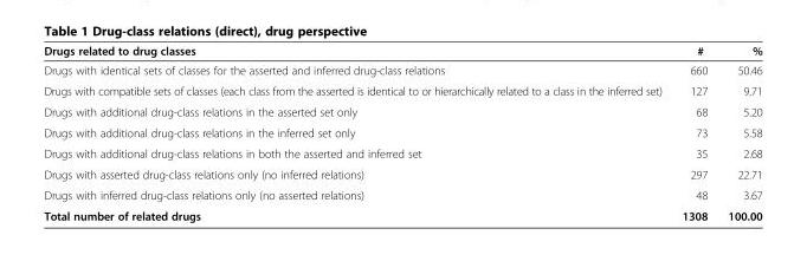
<table><thead><tr><td>Drugs related to drug classes</td><td>#</td><td>%</td></tr></thead><tbody><tr><td>Drugs with identical sets of classes for the asserted and inferred drug-class relations</td><td>660</td><td>50.46</td></tr><tr><td>Drugs with compatible sets of classes (each class from the asserted is identical to or hierarchically related to a class in the inferred set)</td><td>127</td><td>9.71</td></tr><tr><td>Drugs with additional drug-class relations in the asserted set only</td><td>68</td><td>5.20</td></tr><tr><td>Drugs with additional drug-class relations in the inferred set only</td><td>73</td><td>5.58</td></tr><tr><td>Drugs with additional drug-class relations in both the asserted and inferred set</td><td>35</td><td>2.68</td></tr><tr><td>Drugs with asserted drug-class relations only (no inferred relations)</td><td>297</td><td>22.71</td></tr><tr><td>Drugs with inferred drug-class relations only (no asserted relations)</td><td>48</td><td>3.67</td></tr><tr><td>Total number of related drugs</td><td>1308</td><td>100.00</td></tr></tbody></table>